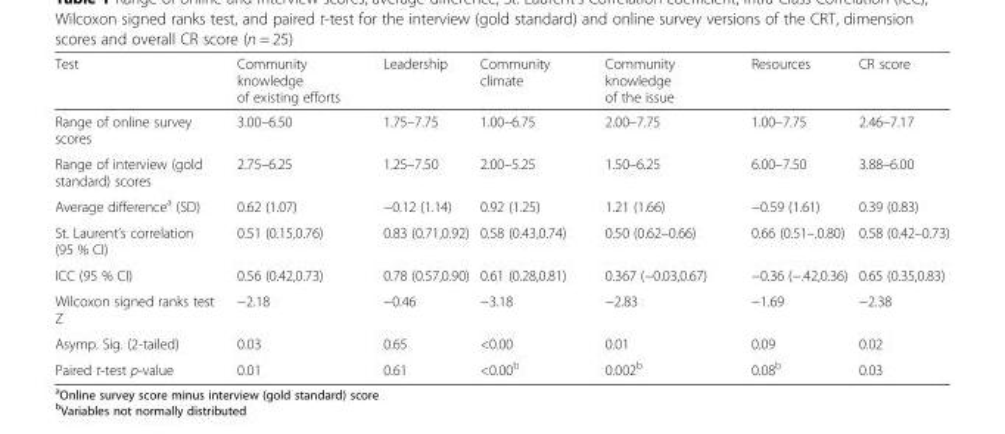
<table><thead><tr><td>Test</td><td>Community knowledge of existing efforts</td><td>Leadership</td><td>Community climate</td><td>Community knowledge of the issue</td><td>Resources</td><td>CR score</td></tr></thead><tbody><tr><td>Range of online survey scores</td><td>3.00–6.50</td><td>1.75–7.75</td><td>1.00–6.75</td><td>2.00–7.75</td><td>1.00–7.75</td><td>2.46–7.17</td></tr><tr><td>Range of interview (gold standard) scores</td><td>2.75–6.25</td><td>1.25–7.50</td><td>2.00–5.25</td><td>1.50–6.25</td><td>6.00–7.50</td><td>3.88–6.00</td></tr><tr><td>Average difference<sup>a</sup> (SD)</td><td>0.62 (1.07)</td><td>−0.12 (1.14)</td><td>0.92 (1.25)</td><td>1.21 (1.66)</td><td>−0.59 (1.61)</td><td>0.39 (0.83)</td></tr><tr><td>St. Laurent’s correlation (95 % CI)</td><td>0.51 (0.15,0.76)</td><td>0.83 (0.71,0.92)</td><td>0.58 (0.43,0.74)</td><td>0.50 (0.62–0.66)</td><td>0.66 (0.51–.0.80)</td><td>0.58 (0.42–0.73)</td></tr><tr><td>ICC (95 % CI)</td><td>0.56 (0.42,0.73)</td><td>0.78 (0.57,0.90)</td><td>0.61 (0.28,0.81)</td><td>0.367 (−0.03,0.67)</td><td>−0.36 (−.42,0.36)</td><td>0.65 (0.35,0.83)</td></tr><tr><td>Wilcoxon signed ranks test Z</td><td>−2.18</td><td>−0.46</td><td>−3.18</td><td>−2.83</td><td>−1.69</td><td>−2.38</td></tr><tr><td>Asymp. Sig. (2-tailed)</td><td>0.03</td><td>0.65</td><td>&lt;0.00</td><td>0.01</td><td>0.09</td><td>0.02</td></tr><tr><td>Paired t-test p-value</td><td>0.01</td><td>0.61</td><td>&lt;0.00<sup>b</sup></td><td>0.002<sup>b</sup></td><td>0.08<sup>b</sup></td><td>0.03</td></tr></tbody></table>